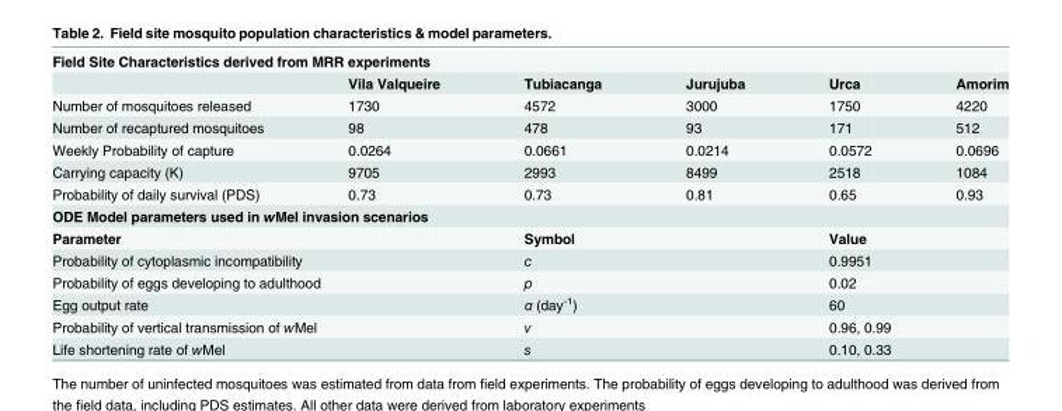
<table><tbody><tr><td colspan="6">Field Site Characteristics derived from MRR experiments</td></tr><tr><td></td><td>Vila Valqueire</td><td>Tubiacanga</td><td>Jurujuba</td><td>Urca</td><td>Amorim</td></tr><tr><td>Number of mosquitoes released</td><td>1730</td><td>4572</td><td>3000</td><td>1750</td><td>4220</td></tr><tr><td>Number of recaptured mosquitoes</td><td>98</td><td>478</td><td>93</td><td>171</td><td>512</td></tr><tr><td>Weekly Probability of capture</td><td>0.0264</td><td>0.0661</td><td>0.0214</td><td>0.0572</td><td>0.0696</td></tr><tr><td>Carrying capacity (K)</td><td>9705</td><td>2993</td><td>8499</td><td>2518</td><td>1084</td></tr><tr><td>Probability of daily survival (PDS)</td><td>0.73</td><td>0.73</td><td>0.81</td><td>0.65</td><td>0.93</td></tr><tr><td colspan="6">ODE Model parameters used in wMel invasion scenarios</td></tr><tr><td colspan="2">Parameter</td><td colspan="2">Symbol</td><td colspan="2">Value</td></tr><tr><td colspan="2">Probability of cytoplasmic incompatibility</td><td colspan="2">c</td><td colspan="2">0.9951</td></tr><tr><td colspan="2">Probability of eggs developing to adulthood</td><td colspan="2">p</td><td colspan="2">0.02</td></tr><tr><td colspan="2">Egg output rate</td><td colspan="2">α (day<sup>-1</sup>)</td><td colspan="2">60</td></tr><tr><td colspan="2">Probability of vertical transmission of wMel</td><td colspan="2">v</td><td colspan="2">0.96, 0.99</td></tr><tr><td colspan="2">Life shortening rate of wMel</td><td colspan="2">s</td><td colspan="2">0.10, 0.33</td></tr></tbody></table>